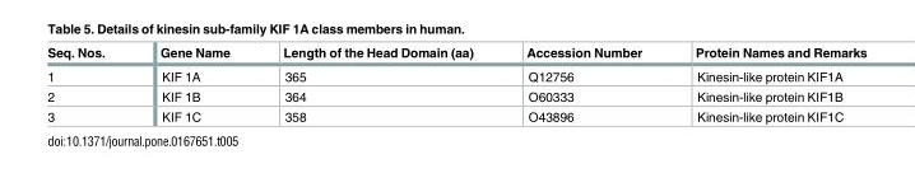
<table><thead><tr><td>Seq. Nos.</td><td>Gene Name</td><td>Length of the Head Domain (aa)</td><td>Accession Number</td><td>Protein Names and Remarks</td></tr></thead><tbody><tr><td>1</td><td>KIF 1A</td><td>365</td><td>Q12756</td><td>Kinesin-like protein KIF1A</td></tr><tr><td>2</td><td>KIF 1B</td><td>364</td><td>O60333</td><td>Kinesin-like protein KIF1B</td></tr><tr><td>3</td><td>KIF 1C</td><td>358</td><td>O43896</td><td>Kinesin-like protein KIF1C</td></tr></tbody></table>